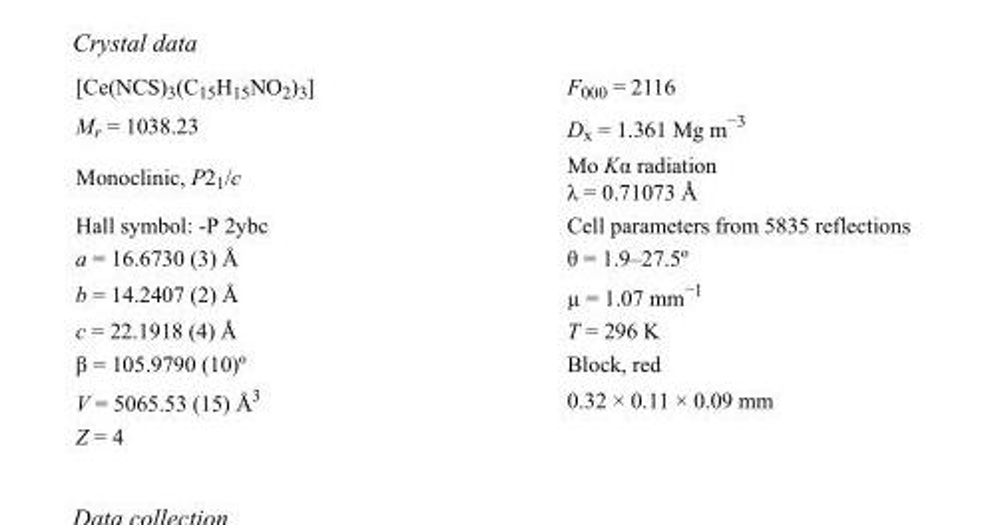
<table><tbody><tr><td>[Ce(NCS)<sub>3</sub>(C<sub>15</sub>H<sub>15</sub>NO<sub>2</sub>)<sub>3</sub>]</td><td>F000 = 2116</td></tr><tr><td>M<sub>r</sub> = 1038.23</td><td>D<sub>x</sub> = 1.361 Mg m<sup>−3</sup></td></tr><tr><td>Monoclinic, P2<sub>1</sub>/c</td><td>Mo Kα radiation λ = 0.71073 Å</td></tr><tr><td>Hall symbol: -P 2ybc</td><td>Cell parameters from 5835 reflections</td></tr><tr><td>a = 16.6730 (3) Å</td><td>θ = 1.9–27.5º</td></tr><tr><td>b = 14.2407 (2) Å</td><td>µ = 1.07 mm<sup>−1</sup></td></tr><tr><td>c = 22.1918 (4) Å</td><td>T = 296 K</td></tr><tr><td>β = 105.9790 (10)º</td><td>Block, red</td></tr><tr><td>V = 5065.53 (15) Å<sup>3</sup></td><td>0.32 × 0.11 × 0.09 mm</td></tr><tr><td>Z = 4</td><td></td></tr></tbody></table>